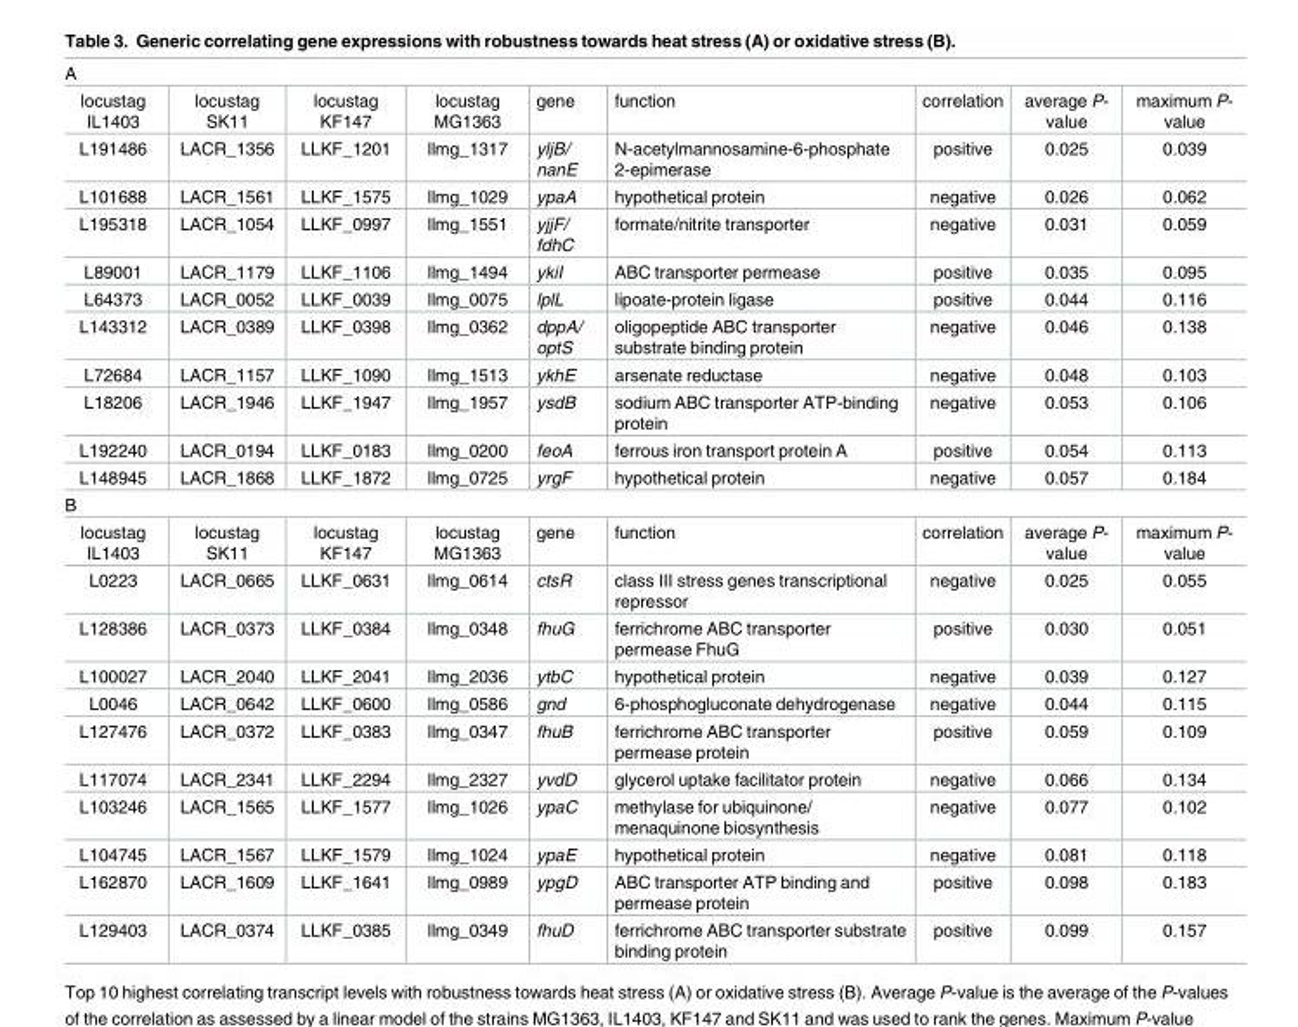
<table><tbody><tr><td colspan="9">A</td></tr><tr><td>locustag IL1403</td><td>locustag SK11</td><td>locustag KF147</td><td>locustag MG1363</td><td>gene</td><td>function</td><td>correlation</td><td>average P- value</td><td>maximum P- value</td></tr><tr><td>L191486</td><td>LACR_1356</td><td>LLKF_1201</td><td>llmg_1317</td><td>yljB/ nanE</td><td>N-acetylmannosamine-6-phosphate 2-epimerase</td><td>positive</td><td>0.025</td><td>0.039</td></tr><tr><td>L101688</td><td>LACR_1561</td><td>LLKF_1575</td><td>llmg_1029</td><td>ypaA</td><td>hypothetical protein</td><td>negative</td><td>0.026</td><td>0.062</td></tr><tr><td>L195318</td><td>LACR_1054</td><td>LLKF_0997</td><td>llmg_1551</td><td>yjjF/ fdhC</td><td>formate/nitrite transporter</td><td>negative</td><td>0.031</td><td>0.059</td></tr><tr><td>L89001</td><td>LACR_1179</td><td>LLKF_1106</td><td>llmg_1494</td><td>ykiI</td><td>ABC transporter permease</td><td>positive</td><td>0.035</td><td>0.095</td></tr><tr><td>L64373</td><td>LACR_0052</td><td>LLKF_0039</td><td>llmg_0075</td><td>lplL</td><td>lipoate-protein ligase</td><td>positive</td><td>0.044</td><td>0.116</td></tr><tr><td>L143312</td><td>LACR_0389</td><td>LLKF_0398</td><td>llmg_0362</td><td>dppA/ optS</td><td>oligopeptide ABC transporter substrate binding protein</td><td>negative</td><td>0.046</td><td>0.138</td></tr><tr><td>L72684</td><td>LACR_1157</td><td>LLKF_1090</td><td>llmg_1513</td><td>ykhE</td><td>arsenate reductase</td><td>negative</td><td>0.048</td><td>0.103</td></tr><tr><td>L18206</td><td>LACR_1946</td><td>LLKF_1947</td><td>llmg_1957</td><td>ysdB</td><td>sodium ABC transporter ATP-binding protein</td><td>negative</td><td>0.053</td><td>0.106</td></tr><tr><td>L192240</td><td>LACR_0194</td><td>LLKF_0183</td><td>llmg_0200</td><td>feoA</td><td>ferrous iron transport protein A</td><td>positive</td><td>0.054</td><td>0.113</td></tr><tr><td>L148945</td><td>LACR_1868</td><td>LLKF_1872</td><td>llmg_0725</td><td>yrgF</td><td>hypothetical protein</td><td>negative</td><td>0.057</td><td>0.184</td></tr><tr><td colspan="9">B</td></tr><tr><td>locustag IL1403</td><td>locustag SK11</td><td>locustag KF147</td><td>locustag MG1363</td><td>gene</td><td>function</td><td>correlation</td><td>average P- value</td><td>maximum P- value</td></tr><tr><td>L0223</td><td>LACR_0665</td><td>LLKF_0631</td><td>llmg_0614</td><td>ctsR</td><td>class III stress genes transcriptional repressor</td><td>negative</td><td>0.025</td><td>0.055</td></tr><tr><td>L128386</td><td>LACR_0373</td><td>LLKF_0384</td><td>llmg_0348</td><td>fhuG</td><td>ferrichrome ABC transporter permease FhuG</td><td>positive</td><td>0.030</td><td>0.051</td></tr><tr><td>L100027</td><td>LACR_2040</td><td>LLKF_2041</td><td>llmg_2036</td><td>ytbC</td><td>hypothetical protein</td><td>negative</td><td>0.039</td><td>0.127</td></tr><tr><td>L0046</td><td>LACR_0642</td><td>LLKF_0600</td><td>llmg_0586</td><td>gnd</td><td>6-phosphogluconate dehydrogenase</td><td>negative</td><td>0.044</td><td>0.115</td></tr><tr><td>L127476</td><td>LACR_0372</td><td>LLKF_0383</td><td>llmg_0347</td><td>fhuB</td><td>ferrichrome ABC transporter permease protein</td><td>positive</td><td>0.059</td><td>0.109</td></tr><tr><td>L117074</td><td>LACR_2341</td><td>LLKF_2294</td><td>llmg_2327</td><td>yvdD</td><td>glycerol uptake facilitator protein</td><td>negative</td><td>0.066</td><td>0.134</td></tr><tr><td>L103246</td><td>LACR_1565</td><td>LLKF_1577</td><td>llmg_1026</td><td>ypaC</td><td>methylase for ubiquinone/ menaquinone biosynthesis</td><td>negative</td><td>0.077</td><td>0.102</td></tr><tr><td>L104745</td><td>LACR_1567</td><td>LLKF_1579</td><td>llmg_1024</td><td>ypaE</td><td>hypothetical protein</td><td>negative</td><td>0.081</td><td>0.118</td></tr><tr><td>L162870</td><td>LACR_1609</td><td>LLKF_1641</td><td>llmg_0989</td><td>ypgD</td><td>ABC transporter ATP binding and permease protein</td><td>positive</td><td>0.098</td><td>0.183</td></tr><tr><td>L129403</td><td>LACR_0374</td><td>LLKF_0385</td><td>llmg_0349</td><td>fhuD</td><td>ferrichrome ABC transporter substrate binding protein</td><td>positive</td><td>0.099</td><td>0.157</td></tr></tbody></table>